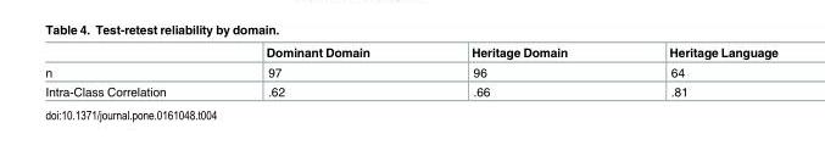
<table><thead><tr><td></td><td>Dominant Domain</td><td>Heritage Domain</td><td>Heritage Language</td></tr></thead><tbody><tr><td>n</td><td>97</td><td>96</td><td>64</td></tr><tr><td>Intra-Class Correlation</td><td>.62</td><td>.66</td><td>.81</td></tr></tbody></table>